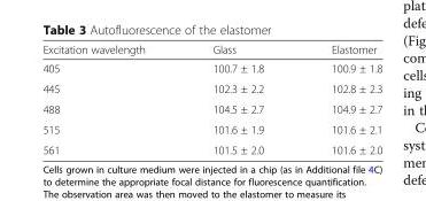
<table><thead><tr><td>Excitation wavelength</td><td>Glass</td><td>Elastomer</td></tr></thead><tbody><tr><td>405</td><td>100.7 ± 1.8</td><td>100.9 ± 1.8</td></tr><tr><td>445</td><td>102.3 ± 2.2</td><td>102.8 ± 2.3</td></tr><tr><td>488</td><td>104.5 ± 2.7</td><td>104.9 ± 2.7</td></tr><tr><td>515</td><td>101.6 ± 1.9</td><td>101.6 ± 2.1</td></tr><tr><td>561</td><td>101.5 ± 2.0</td><td>101.6 ± 2.0</td></tr></tbody></table>